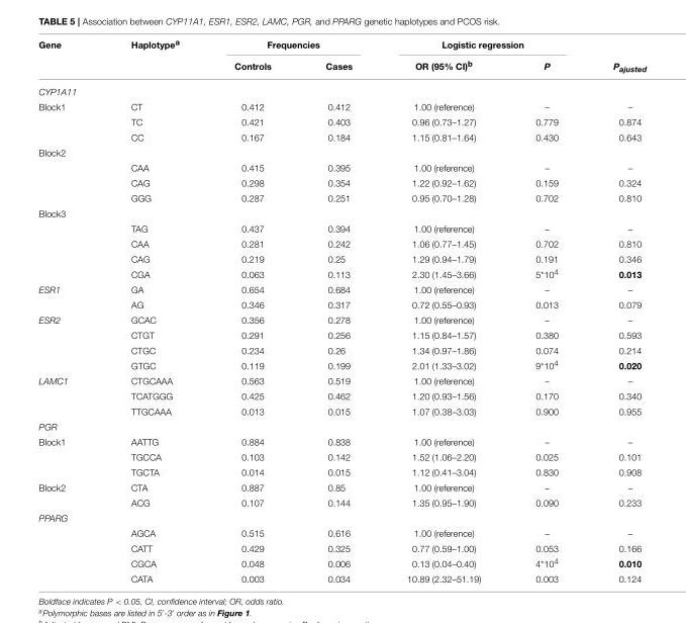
<table><thead><tr><td rowspan="2">Gene</td><td rowspan="2">Haplotype<sup>a</sup></td><td colspan="2">Frequencies</td><td colspan="2">Logistic regression</td><td rowspan="2">Pajusted</td></tr><tr><td>Controls</td><td>Cases</td><td>OR (95% CI)<sup>b</sup></td><td>P</td></tr></thead><tbody><tr><td colspan="7">CYP1A11</td></tr><tr><td rowspan="3">Block1</td><td>CT</td><td>0.412</td><td>0.412</td><td>1.00 (reference)</td><td>–</td><td>–</td></tr><tr><td>TC</td><td>0.421</td><td>0.403</td><td>0.96 (0.73–1.27)</td><td>0.779</td><td>0.874</td></tr><tr><td>CC</td><td>0.167</td><td>0.184</td><td>1.15 (0.81–1.64)</td><td>0.430</td><td>0.643</td></tr><tr><td colspan="7">Block2</td></tr><tr><td></td><td>CAA</td><td>0.415</td><td>0.395</td><td>1.00 (reference)</td><td>–</td><td>–</td></tr><tr><td></td><td>CAG</td><td>0.298</td><td>0.354</td><td>1.22 (0.92–1.62)</td><td>0.159</td><td>0.324</td></tr><tr><td></td><td>GGG</td><td>0.287</td><td>0.251</td><td>0.95 (0.70–1.28)</td><td>0.702</td><td>0.810</td></tr><tr><td colspan="7">Block3</td></tr><tr><td></td><td>TAG</td><td>0.437</td><td>0.394</td><td>1.00 (reference)</td><td>–</td><td>–</td></tr><tr><td></td><td>CAA</td><td>0.281</td><td>0.242</td><td>1.06 (0.77–1.45)</td><td>0.702</td><td>0.810</td></tr><tr><td></td><td>CAG</td><td>0.219</td><td>0.25</td><td>1.29 (0.94–1.79)</td><td>0.191</td><td>0.346</td></tr><tr><td></td><td>CGA</td><td>0.063</td><td>0.113</td><td>2.30 (1.45–3.66)</td><td>5*10<sup>4</sup></td><td>0.013</td></tr><tr><td rowspan="2">ESR1</td><td>GA</td><td>0.654</td><td>0.684</td><td>1.00 (reference)</td><td>–</td><td>–</td></tr><tr><td>AG</td><td>0.346</td><td>0.317</td><td>0.72 (0.55–0.93)</td><td>0.013</td><td>0.079</td></tr><tr><td rowspan="4">ESR2</td><td>GCAC</td><td>0.356</td><td>0.278</td><td>1.00 (reference)</td><td>–</td><td>–</td></tr><tr><td>CTGT</td><td>0.291</td><td>0.256</td><td>1.15 (0.84–1.57)</td><td>0.380</td><td>0.593</td></tr><tr><td>CTGC</td><td>0.234</td><td>0.26</td><td>1.34 (0.97–1.86)</td><td>0.074</td><td>0.214</td></tr><tr><td>GTGC</td><td>0.119</td><td>0.199</td><td>2.01 (1.33–3.02)</td><td>9*10<sup>4</sup></td><td>0.020</td></tr><tr><td rowspan="3">LAMC1</td><td>CTGCAAA</td><td>0.563</td><td>0.519</td><td>1.00 (reference)</td><td>–</td><td>–</td></tr><tr><td>TCATGGG</td><td>0.425</td><td>0.462</td><td>1.20 (0.93–1.56)</td><td>0.170</td><td>0.340</td></tr><tr><td>TTGCAAA</td><td>0.013</td><td>0.015</td><td>1.07 (0.38–3.03)</td><td>0.900</td><td>0.955</td></tr><tr><td colspan="7">PGR</td></tr><tr><td rowspan="3">Block1</td><td>AATTG</td><td>0.884</td><td>0.838</td><td>1.00 (reference)</td><td>–</td><td>–</td></tr><tr><td>TGCCA</td><td>0.103</td><td>0.142</td><td>1.52 (1.06–2.20)</td><td>0.025</td><td>0.101</td></tr><tr><td>TGCTA</td><td>0.014</td><td>0.015</td><td>1.12 (0.41–3.04)</td><td>0.830</td><td>0.908</td></tr><tr><td rowspan="2">Block2</td><td>CTA</td><td>0.887</td><td>0.85</td><td>1.00 (reference)</td><td>–</td><td>–</td></tr><tr><td>ACG</td><td>0.107</td><td>0.144</td><td>1.35 (0.95–1.90)</td><td>0.090</td><td>0.233</td></tr><tr><td colspan="7">PPARG</td></tr><tr><td></td><td>AGCA</td><td>0.515</td><td>0.616</td><td>1.00 (reference)</td><td>–</td><td>–</td></tr><tr><td></td><td>CATT</td><td>0.429</td><td>0.325</td><td>0.77 (0.59–1.00)</td><td>0.053</td><td>0.166</td></tr><tr><td></td><td>CGCA</td><td>0.048</td><td>0.006</td><td>0.13 (0.04–0.40)</td><td>4*10<sup>4</sup></td><td>0.010</td></tr><tr><td></td><td>CATA</td><td>0.003</td><td>0.034</td><td>10.89 (2.32–51.19)</td><td>0.003</td><td>0.124</td></tr></tbody></table>